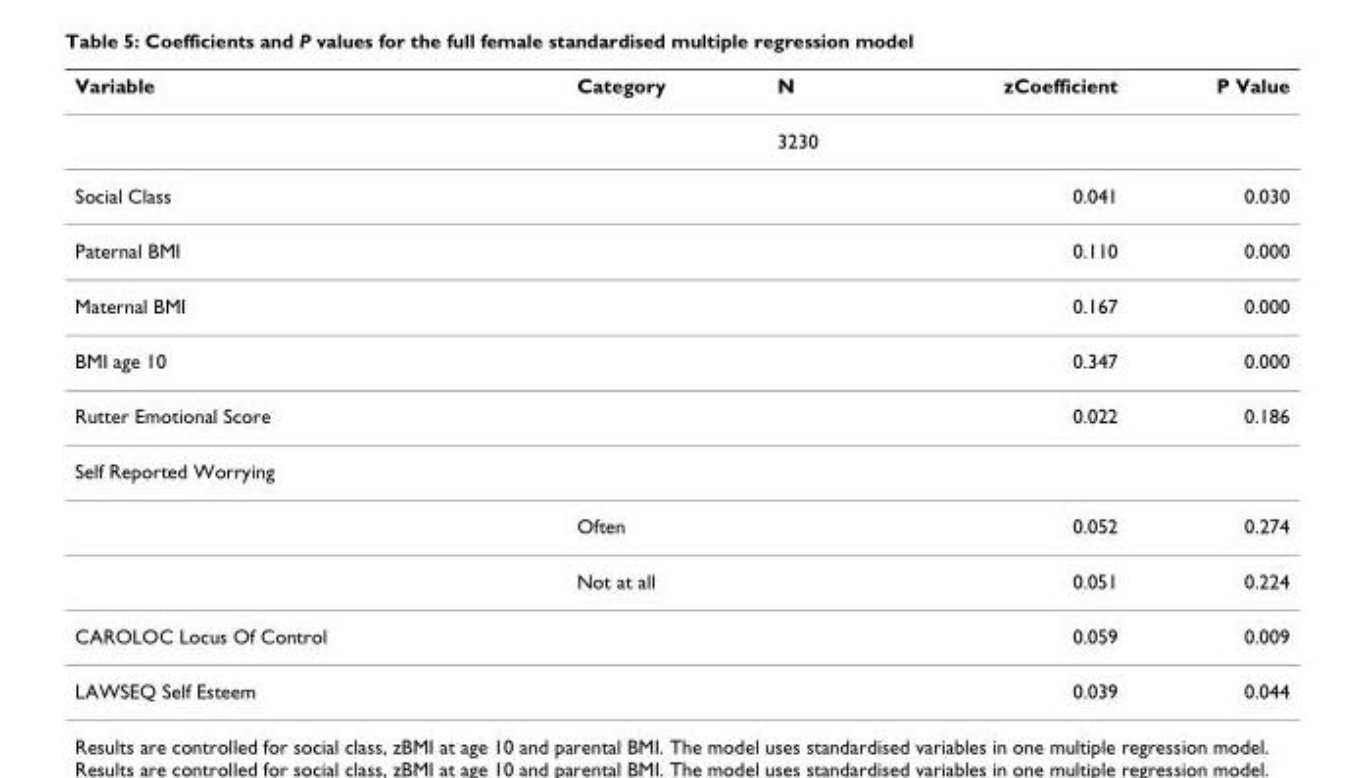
<table><thead><tr><td>Variable</td><td>Category</td><td>N</td><td>zCoefficient</td><td>P Value</td></tr></thead><tbody><tr><td></td><td></td><td>3230</td><td></td><td></td></tr><tr><td>Social Class</td><td></td><td></td><td>0.041</td><td>0.030</td></tr><tr><td>Paternal BMI</td><td></td><td></td><td>0.110</td><td>0.000</td></tr><tr><td>Maternal BMI</td><td></td><td></td><td>0.167</td><td>0.000</td></tr><tr><td>BMI age 10</td><td></td><td></td><td>0.347</td><td>0.000</td></tr><tr><td>Rutter Emotional Score</td><td></td><td></td><td>0.022</td><td>0.186</td></tr><tr><td colspan="5">Self Reported Worrying</td></tr><tr><td></td><td>Often</td><td></td><td>0.052</td><td>0.274</td></tr><tr><td></td><td>Not at all</td><td></td><td>0.051</td><td>0.224</td></tr><tr><td>CAROLOC Locus Of Control</td><td></td><td></td><td>0.059</td><td>0.009</td></tr><tr><td>LAWSEQ Self Esteem</td><td></td><td></td><td>0.039</td><td>0.044</td></tr></tbody></table>